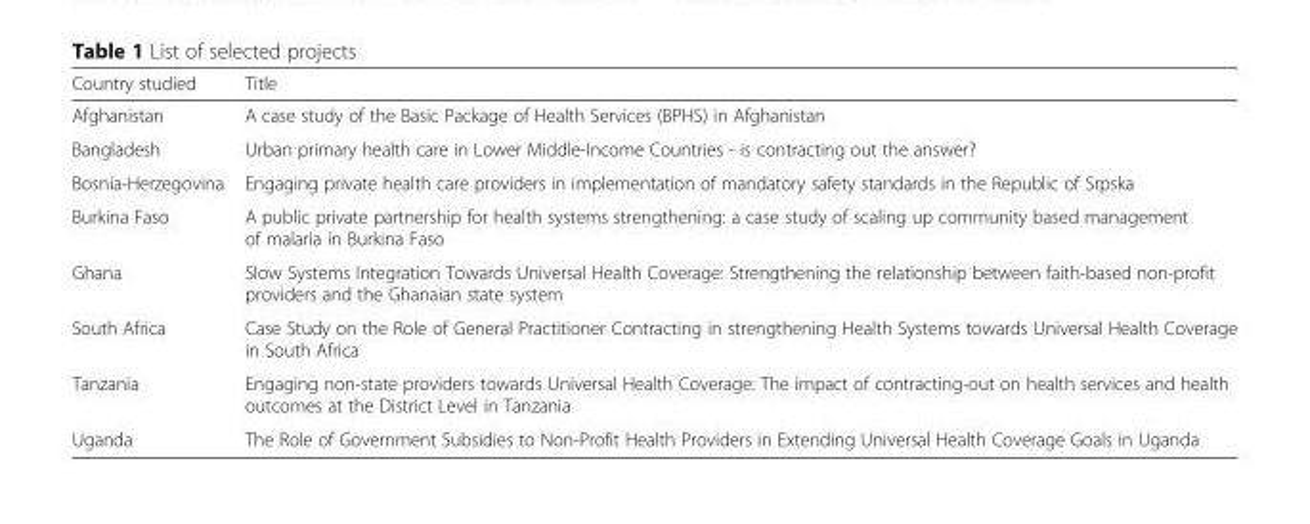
<table><thead><tr><td>Country studied</td><td>Title</td></tr></thead><tbody><tr><td>Afghanistan</td><td>A case study of the Basic Package of Health Services (BPHS) in Afghanistan</td></tr><tr><td>Bangladesh</td><td>Urban primary health care in Lower Middle-Income Countries - is contracting out the answer?</td></tr><tr><td>Bosnia-Herzegovina</td><td>Engaging private health care providers in implementation of mandatory safety standards in the Republic of Srpska</td></tr><tr><td>Burkina Faso</td><td>A public private partnership for health systems strengthening: a case study of scaling up community based management of malaria in Burkina Faso</td></tr><tr><td>Ghana</td><td>Slow Systems Integration Towards Universal Health Coverage: Strengthening the relationship between faith-based non-profit providers and the Ghanaian state system</td></tr><tr><td>South Africa</td><td>Case Study on the Role of General Practitioner Contracting in strengthening Health Systems towards Universal Health Coverage in South Africa</td></tr><tr><td>Tanzania</td><td>Engaging non-state providers towards Universal Health Coverage: The impact of contracting-out on health services and health outcomes at the District Level in Tanzania</td></tr><tr><td>Uganda</td><td>The Role of Government Subsidies to Non-Profit Health Providers in Extending Universal Health Coverage Goals in Uganda</td></tr></tbody></table>